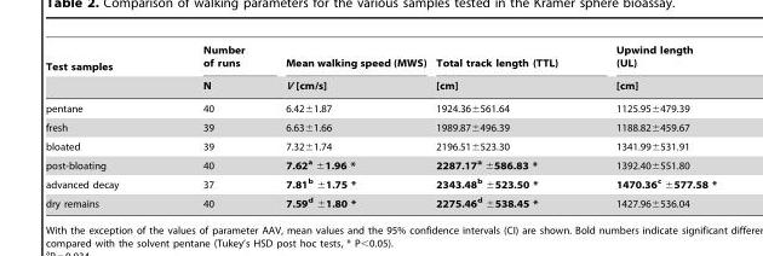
<table><thead><tr><td rowspan="2">Test samples</td><td rowspan="2">Number of runs N</td><td rowspan="2">Mean walking speed (MWS) V [cm/s]</td><td rowspan="2">Total track length (TTL) [cm]</td><td rowspan="2">Upwind length (UL) [cm]</td></tr><tr></tr></thead><tbody><tr><td>pentane</td><td>40</td><td>6.42±1.87</td><td>1924.36±561.64</td><td>1125.95±479.39</td></tr><tr><td>fresh</td><td>39</td><td>6.63±1.66</td><td>1989.87±496.39</td><td>1188.82±459.67</td></tr><tr><td>bloated</td><td>39</td><td>7.32±1.74</td><td>2196.51±523.30</td><td>1341.99±531.91</td></tr><tr><td>post-bloating</td><td>40</td><td>7.62a ±1.96 *</td><td>2287.17a ±586.83 *</td><td>1392.40±551.80</td></tr><tr><td>advanced decay</td><td>37</td><td>7.81b ±1.75 *</td><td>2343.48b ±523.50 *</td><td>1470.36c ±577.58 *</td></tr><tr><td>dry remains</td><td>40</td><td>7.59d ±1.80 *</td><td>2275.46d ±538.45 *</td><td>1427.96±536.04</td></tr></tbody></table>